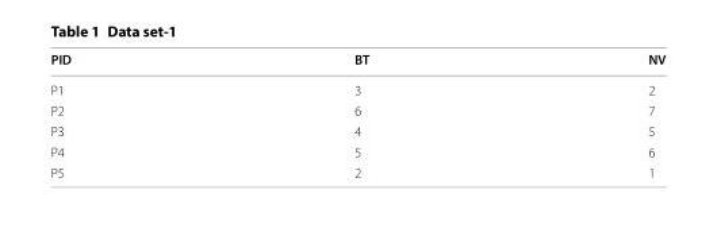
<table><thead><tr><td>PID</td><td>BT</td><td>NV</td></tr></thead><tbody><tr><td>P1</td><td>3</td><td>2</td></tr><tr><td>P2</td><td>6</td><td>7</td></tr><tr><td>P3</td><td>4</td><td>5</td></tr><tr><td>P4</td><td>5</td><td>6</td></tr><tr><td>P5</td><td>2</td><td>1</td></tr></tbody></table>